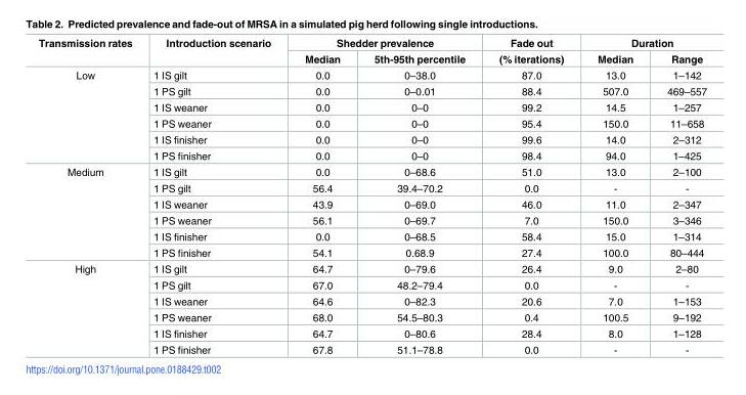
<table><thead><tr><td rowspan="2">Transmission rates</td><td rowspan="2">Introduction scenario</td><td colspan="2">Shedder prevalence</td><td rowspan="2">Fade out (% iterations)</td><td colspan="2">Duration</td></tr><tr><td>Median</td><td>5th-95th percentile</td><td>Median</td><td>Range</td></tr></thead><tbody><tr><td rowspan="6">Low</td><td>1 IS gilt</td><td>0.0</td><td>0–38.0</td><td>87.0</td><td>13.0</td><td>1–142</td></tr><tr><td>1 PS gilt</td><td>0.0</td><td>0–0.01</td><td>88.4</td><td>507.0</td><td>469–557</td></tr><tr><td>1 IS weaner</td><td>0.0</td><td>0–0</td><td>99.2</td><td>14.5</td><td>1–257</td></tr><tr><td>1 PS weaner</td><td>0.0</td><td>0–0</td><td>95.4</td><td>150.0</td><td>11–658</td></tr><tr><td>1 IS finisher</td><td>0.0</td><td>0–0</td><td>99.6</td><td>14.0</td><td>2–312</td></tr><tr><td>1 PS finisher</td><td>0.0</td><td>0–0</td><td>98.4</td><td>94.0</td><td>1–425</td></tr><tr><td rowspan="6">Medium</td><td>1 IS gilt</td><td>0.0</td><td>0–68.6</td><td>51.0</td><td>13.0</td><td>2–100</td></tr><tr><td>1 PS gilt</td><td>56.4</td><td>39.4–70.2</td><td>0.0</td><td>-</td><td>-</td></tr><tr><td>1 IS weaner</td><td>43.9</td><td>0–69.0</td><td>46.0</td><td>11.0</td><td>2–347</td></tr><tr><td>1 PS weaner</td><td>56.1</td><td>0–69.7</td><td>7.0</td><td>150.0</td><td>3–346</td></tr><tr><td>1 IS finisher</td><td>0.0</td><td>0–68.5</td><td>58.4</td><td>15.0</td><td>1–314</td></tr><tr><td>1 PS finisher</td><td>54.1</td><td>0.68.9</td><td>27.4</td><td>100.0</td><td>80–444</td></tr><tr><td rowspan="6">High</td><td>1 IS gilt</td><td>64.7</td><td>0–79.6</td><td>26.4</td><td>9.0</td><td>2–80</td></tr><tr><td>1 PS gilt</td><td>67.0</td><td>48.2–79.4</td><td>0.0</td><td>-</td><td>-</td></tr><tr><td>1 IS weaner</td><td>64.6</td><td>0–82.3</td><td>20.6</td><td>7.0</td><td>1–153</td></tr><tr><td>1 PS weaner</td><td>68.0</td><td>54.5–80.3</td><td>0.4</td><td>100.5</td><td>9–192</td></tr><tr><td>1 IS finisher</td><td>64.7</td><td>0–80.6</td><td>28.4</td><td>8.0</td><td>1–128</td></tr><tr><td>1 PS finisher</td><td>67.8</td><td>51.1–78.8</td><td>0.0</td><td>-</td><td>-</td></tr></tbody></table>